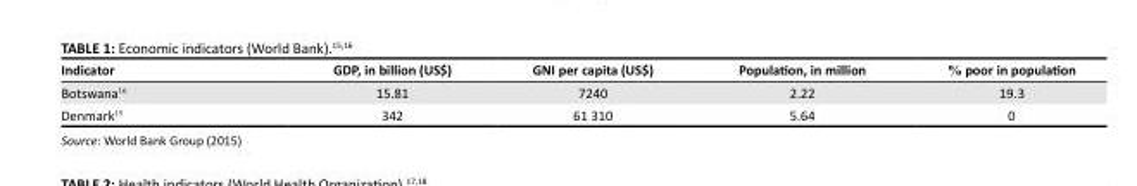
<table><thead><tr><td>Indicator</td><td>GDP, in billion (US$)</td><td>GNI per capita (US$)</td><td>Population, in million</td><td>% poor in population</td></tr></thead><tbody><tr><td>Botswana<sup>16</sup></td><td>15.81</td><td>7240</td><td>2.22</td><td>19.3</td></tr><tr><td>Denmark<sup>15</sup></td><td>342</td><td>61 310</td><td>5.64</td><td>0</td></tr></tbody></table>